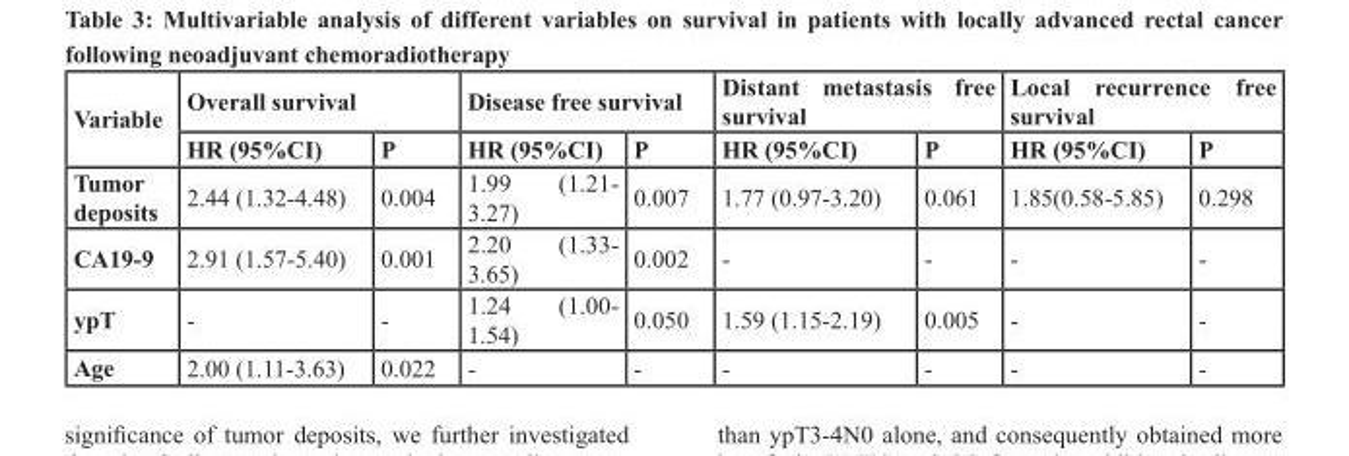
<table><thead><tr><td rowspan="2">Variable</td><td colspan="2">Overall survival</td><td colspan="2">Disease free survival</td><td colspan="2">Distant metastasis free survival</td><td colspan="2">Local recurrence free survival</td></tr><tr><td>HR (95%CI)</td><td>P</td><td>HR (95%CI)</td><td>P</td><td>HR (95%CI)</td><td>P</td><td>HR (95%CI)</td><td>P</td></tr></thead><tbody><tr><td>Tumor deposits</td><td>2.44 (1.32-4.48)</td><td>0.004</td><td>1.99 (1.21- 3.27)</td><td>0.007</td><td>1.77 (0.97-3.20)</td><td>0.061</td><td>1.85(0.58-5.85)</td><td>0.298</td></tr><tr><td>CA19-9</td><td>2.91 (1.57-5.40)</td><td>0.001</td><td>2.20 (1.33- 3.65)</td><td>0.002</td><td>-</td><td>-</td><td>-</td><td>-</td></tr><tr><td>ypT</td><td>-</td><td>-</td><td>1.24 (1.00- 1.54)</td><td>0.050</td><td>1.59 (1.15-2.19)</td><td>0.005</td><td>-</td><td>-</td></tr><tr><td>Age</td><td>2.00 (1.11-3.63)</td><td>0.022</td><td>-</td><td>-</td><td>-</td><td>-</td><td>-</td><td>-</td></tr></tbody></table>